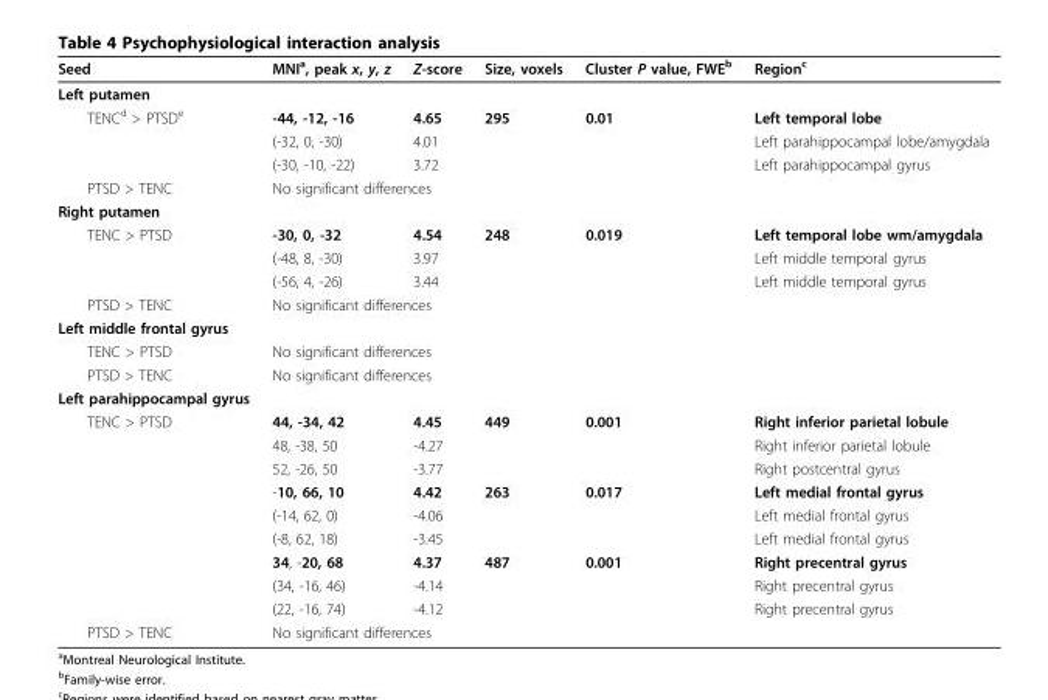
<table><thead><tr><td>Seed</td><td>MNI<sup>a</sup>, peak x, y, z</td><td>Z-score</td><td>Size, voxels</td><td>Cluster P value, FWE<sup>b</sup></td><td>Region<sup>c</sup></td></tr></thead><tbody><tr><td colspan="6">Left putamen</td></tr><tr><td rowspan="3">TENC<sup>d</sup> &gt; PTSD<sup>e</sup></td><td>-44, -12, -16</td><td>4.65</td><td>295</td><td>0.01</td><td>Left temporal lobe</td></tr><tr><td>(-32, 0, -30)</td><td>4.01</td><td></td><td></td><td>Left parahippocampal lobe/amygdala</td></tr><tr><td>(-30, -10, -22)</td><td>3.72</td><td></td><td></td><td>Left parahippocampal gyrus</td></tr><tr><td>PTSD &gt; TENC</td><td colspan="2">No significant differences</td><td></td><td></td><td></td></tr><tr><td colspan="6">Right putamen</td></tr><tr><td rowspan="3">TENC &gt; PTSD</td><td>-30, 0, -32</td><td>4.54</td><td>248</td><td>0.019</td><td>Left temporal lobe wm/amygdala</td></tr><tr><td>(-48, 8, -30)</td><td>3.97</td><td></td><td></td><td>Left middle temporal gyrus</td></tr><tr><td>(-56, 4, -26)</td><td>3.44</td><td></td><td></td><td>Left middle temporal gyrus</td></tr><tr><td>PTSD &gt; TENC</td><td colspan="2">No significant differences</td><td></td><td></td><td></td></tr><tr><td colspan="6">Left middle frontal gyrus</td></tr><tr><td>TENC &gt; PTSD</td><td colspan="2">No significant differences</td><td></td><td></td><td></td></tr><tr><td>PTSD &gt; TENC</td><td colspan="2">No significant differences</td><td></td><td></td><td></td></tr><tr><td colspan="6">Left parahippocampal gyrus</td></tr><tr><td rowspan="9">TENC &gt; PTSD</td><td>44, -34, 42</td><td>4.45</td><td>449</td><td>0.001</td><td>Right inferior parietal lobule</td></tr><tr><td>48, -38, 50</td><td>-4.27</td><td></td><td></td><td>Right inferior parietal lobule</td></tr><tr><td>52, -26, 50</td><td>-3.77</td><td></td><td></td><td>Right postcentral gyrus</td></tr><tr><td>-10, 66, 10</td><td>4.42</td><td>263</td><td>0.017</td><td>Left medial frontal gyrus</td></tr><tr><td>(-14, 62, 0)</td><td>-4.06</td><td></td><td></td><td>Left medial frontal gyrus</td></tr><tr><td>(-8, 62, 18)</td><td>-3.45</td><td></td><td></td><td>Left medial frontal gyrus</td></tr><tr><td>34, -20, 68</td><td>4.37</td><td>487</td><td>0.001</td><td>Right precentral gyrus</td></tr><tr><td>(34, -16, 46)</td><td>-4.14</td><td></td><td></td><td>Right precentral gyrus</td></tr><tr><td>(22, -16, 74)</td><td>-4.12</td><td></td><td></td><td>Right precentral gyrus</td></tr><tr><td>PTSD &gt; TENC</td><td colspan="2">No significant differences</td><td></td><td></td><td></td></tr></tbody></table>